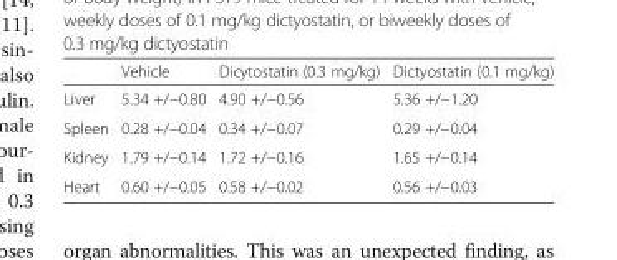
<table><thead><tr><td></td><td>Vehicle</td><td>Dicytostatin (0.3 mg/kg)</td><td>Dictyostatin (0.1 mg/kg)</td></tr></thead><tbody><tr><td>Liver</td><td>5.34 +/−0.80</td><td>4.90 +/−0.56</td><td>5.36 +/−1.20</td></tr><tr><td>Spleen</td><td>0.28 +/−0.04</td><td>0.34 +/−0.07</td><td>0.29 +/−0.04</td></tr><tr><td>Kidney</td><td>1.79 +/−0.14</td><td>1.72 +/−0.16</td><td>1.65 +/−0.14</td></tr><tr><td>Heart</td><td>0.60 +/−0.05</td><td>0.58 +/−0.02</td><td>0.56 +/−0.03</td></tr></tbody></table>